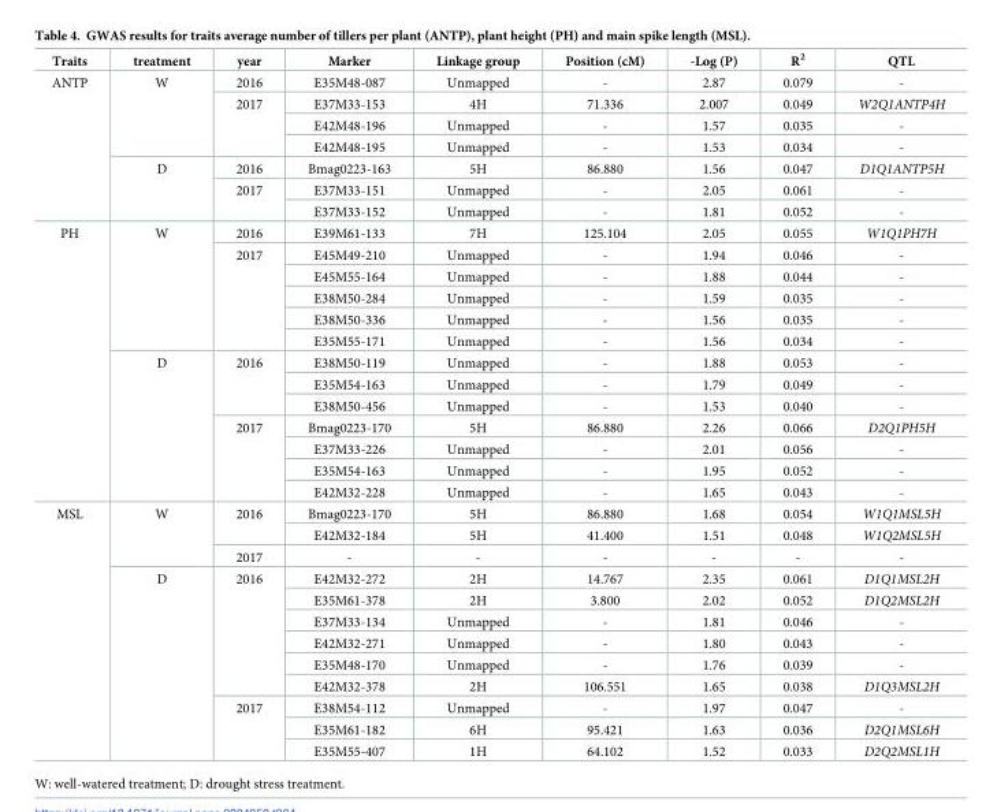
<table><thead><tr><td>Traits</td><td>treatment</td><td>year</td><td>Marker</td><td>Linkage group</td><td>Position (cM)</td><td>-Log (P)</td><td>R<sup>2</sup></td><td>QTL</td></tr></thead><tbody><tr><td rowspan="7">ANTP</td><td rowspan="4">W</td><td>2016</td><td>E35M48-087</td><td>Unmapped</td><td>-</td><td>2.87</td><td>0.079</td><td>-</td></tr><tr><td rowspan="3">2017</td><td>E37M33-153</td><td>4H</td><td>71.336</td><td>2.007</td><td>0.049</td><td>W2Q1ANTP4H</td></tr><tr><td>E42M48-196</td><td>Unmapped</td><td>-</td><td>1.57</td><td>0.035</td><td>-</td></tr><tr><td>E42M48-195</td><td>Unmapped</td><td>-</td><td>1.53</td><td>0.034</td><td>-</td></tr><tr><td rowspan="3">D</td><td>2016</td><td>Bmag0223-163</td><td>5H</td><td>86.880</td><td>1.56</td><td>0.047</td><td>D1Q1ANTP5H</td></tr><tr><td rowspan="2">2017</td><td>E37M33-151</td><td>Unmapped</td><td>-</td><td>2.05</td><td>0.061</td><td>-</td></tr><tr><td>E37M33-152</td><td>Unmapped</td><td>-</td><td>1.81</td><td>0.052</td><td>-</td></tr><tr><td rowspan="13">PH</td><td rowspan="6">W</td><td>2016</td><td>E39M61-133</td><td>7H</td><td>125.104</td><td>2.05</td><td>0.055</td><td>W1Q1PH7H</td></tr><tr><td rowspan="5">2017</td><td>E45M49-210</td><td>Unmapped</td><td>-</td><td>1.94</td><td>0.046</td><td>-</td></tr><tr><td>E45M55-164</td><td>Unmapped</td><td>-</td><td>1.88</td><td>0.044</td><td>-</td></tr><tr><td>E38M50-284</td><td>Unmapped</td><td>-</td><td>1.59</td><td>0.035</td><td>-</td></tr><tr><td>E38M50-336</td><td>Unmapped</td><td>-</td><td>1.56</td><td>0.035</td><td>-</td></tr><tr><td>E35M55-171</td><td>Unmapped</td><td>-</td><td>1.56</td><td>0.034</td><td>-</td></tr><tr><td rowspan="7">D</td><td rowspan="3">2016</td><td>E38M50-119</td><td>Unmapped</td><td>-</td><td>1.88</td><td>0.053</td><td>-</td></tr><tr><td>E35M54-163</td><td>Unmapped</td><td>-</td><td>1.79</td><td>0.049</td><td>-</td></tr><tr><td>E38M50-456</td><td>Unmapped</td><td>-</td><td>1.53</td><td>0.040</td><td>-</td></tr><tr><td rowspan="4">2017</td><td>Bmag0223-170</td><td>5H</td><td>86.880</td><td>2.26</td><td>0.066</td><td>D2Q1PH5H</td></tr><tr><td>E37M33-226</td><td>Unmapped</td><td>-</td><td>2.01</td><td>0.056</td><td>-</td></tr><tr><td>E35M54-163</td><td>Unmapped</td><td>-</td><td>1.95</td><td>0.052</td><td>-</td></tr><tr><td>E42M32-228</td><td>Unmapped</td><td>-</td><td>1.65</td><td>0.043</td><td>-</td></tr><tr><td rowspan="12">MSL</td><td rowspan="3">W</td><td rowspan="2">2016</td><td>Bmag0223-170</td><td>5H</td><td>86.880</td><td>1.68</td><td>0.054</td><td>W1Q1MSL5H</td></tr><tr><td>E42M32-184</td><td>5H</td><td>41.400</td><td>1.51</td><td>0.048</td><td>W1Q2MSL5H</td></tr><tr><td>2017</td><td>-</td><td>-</td><td>-</td><td>-</td><td>-</td><td>-</td></tr><tr><td rowspan="9">D</td><td rowspan="6">2016</td><td>E42M32-272</td><td>2H</td><td>14.767</td><td>2.35</td><td>0.061</td><td>D1Q1MSL2H</td></tr><tr><td>E35M61-378</td><td>2H</td><td>3.800</td><td>2.02</td><td>0.052</td><td>D1Q2MSL2H</td></tr><tr><td>E37M33-134</td><td>Unmapped</td><td>-</td><td>1.81</td><td>0.046</td><td>-</td></tr><tr><td>E42M32-271</td><td>Unmapped</td><td>-</td><td>1.80</td><td>0.043</td><td>-</td></tr><tr><td>E35M48-170</td><td>Unmapped</td><td>-</td><td>1.76</td><td>0.039</td><td>-</td></tr><tr><td>E42M32-378</td><td>2H</td><td>106.551</td><td>1.65</td><td>0.038</td><td>D1Q3MSL2H</td></tr><tr><td rowspan="3">2017</td><td>E38M54-112</td><td>Unmapped</td><td>-</td><td>1.97</td><td>0.047</td><td>-</td></tr><tr><td>E35M61-182</td><td>6H</td><td>95.421</td><td>1.63</td><td>0.036</td><td>D2Q1MSL6H</td></tr><tr><td>E35M55-407</td><td>1H</td><td>64.102</td><td>1.52</td><td>0.033</td><td>D2Q2MSL1H</td></tr></tbody></table>